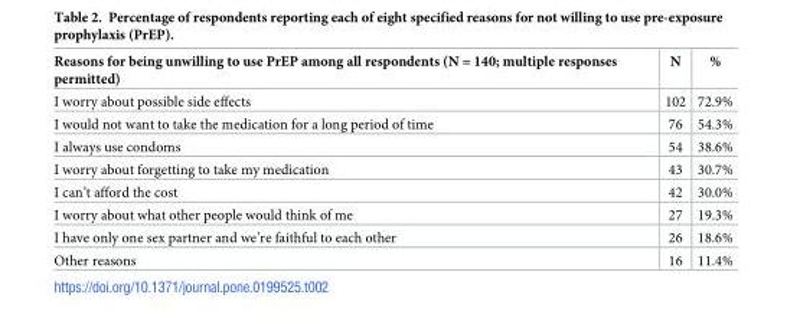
<table><thead><tr><td>Reasons for being unwilling to use PrEP among all respondents (N = 140; multiple responses permitted)</td><td>N</td><td>%</td></tr></thead><tbody><tr><td>I worry about possible side effects</td><td>102</td><td>72.9%</td></tr><tr><td>I would not want to take the medication for a long period of time</td><td>76</td><td>54.3%</td></tr><tr><td>I always use condoms</td><td>54</td><td>38.6%</td></tr><tr><td>I worry about forgetting to take my medication</td><td>43</td><td>30.7%</td></tr><tr><td>I can’t afford the cost</td><td>42</td><td>30.0%</td></tr><tr><td>I worry about what other people would think of me</td><td>27</td><td>19.3%</td></tr><tr><td>I have only one sex partner and we’re faithful to each other</td><td>26</td><td>18.6%</td></tr><tr><td>Other reasons</td><td>16</td><td>11.4%</td></tr></tbody></table>